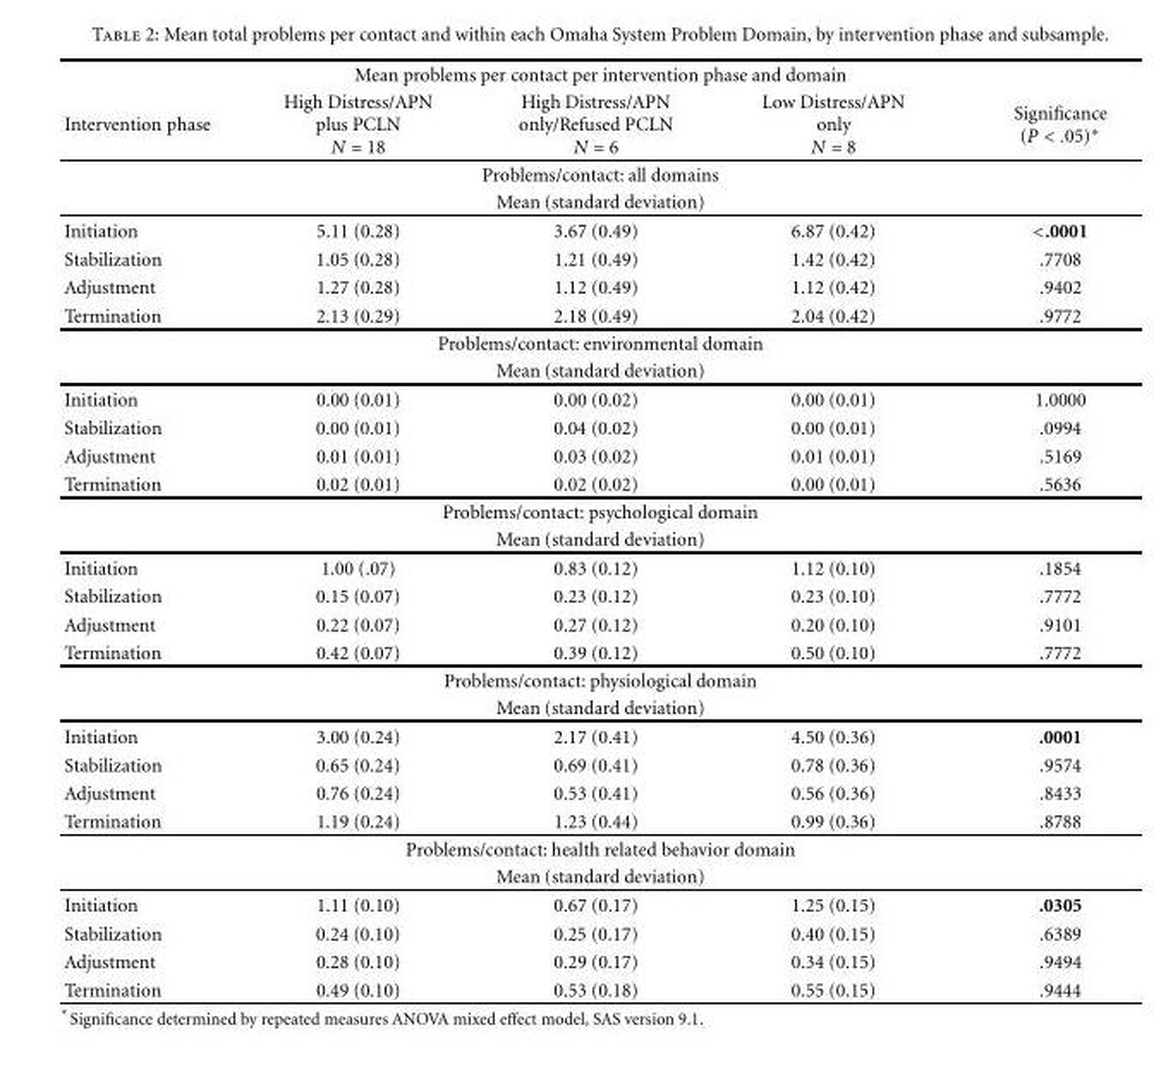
<table><thead><tr><td colspan="5">Mean problems per contact per intervention phase and domain</td></tr><tr><td>Intervention phase</td><td>High Distress/APN plus PCLN N = 18</td><td>High Distress/APN only/Refused PCLN N = 6</td><td>Low Distress/APN only N = 8</td><td>Significance (P &lt; .05)∗</td></tr></thead><tbody><tr><td colspan="5">Problems/contact: all domains</td></tr><tr><td colspan="5">Mean (standard deviation)</td></tr><tr><td>Initiation</td><td>5.11 (0.28)</td><td>3.67 (0.49)</td><td>6.87 (0.42)</td><td>&lt;.0001</td></tr><tr><td>Stabilization</td><td>1.05 (0.28)</td><td>1.21 (0.49)</td><td>1.42 (0.42)</td><td>.7708</td></tr><tr><td>Adjustment</td><td>1.27 (0.28)</td><td>1.12 (0.49)</td><td>1.12 (0.42)</td><td>.9402</td></tr><tr><td>Termination</td><td>2.13 (0.29)</td><td>2.18 (0.49)</td><td>2.04 (0.42)</td><td>.9772</td></tr><tr><td colspan="5">Problems/contact: environmental domain</td></tr><tr><td colspan="5">Mean (standard deviation)</td></tr><tr><td>Initiation</td><td>0.00 (0.01)</td><td>0.00 (0.02)</td><td>0.00 (0.01)</td><td>1.0000</td></tr><tr><td>Stabilization</td><td>0.00 (0.01)</td><td>0.04 (0.02)</td><td>0.00 (0.01)</td><td>.0994</td></tr><tr><td>Adjustment</td><td>0.01 (0.01)</td><td>0.03 (0.02)</td><td>0.01 (0.01)</td><td>.5169</td></tr><tr><td>Termination</td><td>0.02 (0.01)</td><td>0.02 (0.02)</td><td>0.00 (0.01)</td><td>.5636</td></tr><tr><td colspan="5">Problems/contact: psychological domain</td></tr><tr><td colspan="5">Mean (standard deviation)</td></tr><tr><td>Initiation</td><td>1.00 (.07)</td><td>0.83 (0.12)</td><td>1.12 (0.10)</td><td>.1854</td></tr><tr><td>Stabilization</td><td>0.15 (0.07)</td><td>0.23 (0.12)</td><td>0.23 (0.10)</td><td>.7772</td></tr><tr><td>Adjustment</td><td>0.22 (0.07)</td><td>0.27 (0.12)</td><td>0.20 (0.10)</td><td>.9101</td></tr><tr><td>Termination</td><td>0.42 (0.07)</td><td>0.39 (0.12)</td><td>0.50 (0.10)</td><td>.7772</td></tr><tr><td colspan="5">Problems/contact: physiological domain</td></tr><tr><td colspan="5">Mean (standard deviation)</td></tr><tr><td>Initiation</td><td>3.00 (0.24)</td><td>2.17 (0.41)</td><td>4.50 (0.36)</td><td>.0001</td></tr><tr><td>Stabilization</td><td>0.65 (0.24)</td><td>0.69 (0.41)</td><td>0.78 (0.36)</td><td>.9574</td></tr><tr><td>Adjustment</td><td>0.76 (0.24)</td><td>0.53 (0.41)</td><td>0.56 (0.36)</td><td>.8433</td></tr><tr><td>Termination</td><td>1.19 (0.24)</td><td>1.23 (0.44)</td><td>0.99 (0.36)</td><td>.8788</td></tr><tr><td colspan="5">Problems/contact: health related behavior domain</td></tr><tr><td colspan="5">Mean (standard deviation)</td></tr><tr><td>Initiation</td><td>1.11 (0.10)</td><td>0.67 (0.17)</td><td>1.25 (0.15)</td><td>.0305</td></tr><tr><td>Stabilization</td><td>0.24 (0.10)</td><td>0.25 (0.17)</td><td>0.40 (0.15)</td><td>.6389</td></tr><tr><td>Adjustment</td><td>0.28 (0.10)</td><td>0.29 (0.17)</td><td>0.34 (0.15)</td><td>.9494</td></tr><tr><td>Termination</td><td>0.49 (0.10)</td><td>0.53 (0.18)</td><td>0.55 (0.15)</td><td>.9444</td></tr></tbody></table>